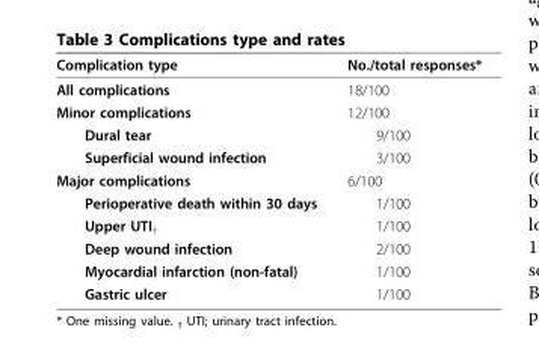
<table><thead><tr><td>Complication type</td><td>No./total responses*</td></tr></thead><tbody><tr><td>All complications</td><td>18/100</td></tr><tr><td>Minor complications</td><td>12/100</td></tr><tr><td>Dural tear</td><td>9/100</td></tr><tr><td>Superficial wound infection</td><td>3/100</td></tr><tr><td>Major complications</td><td>6/100</td></tr><tr><td>Perioperative death within 30 days</td><td>1/100</td></tr><tr><td>Upper UTI<sub>†</sub></td><td>1/100</td></tr><tr><td>Deep wound infection</td><td>2/100</td></tr><tr><td>Myocardial infarction (non-fatal)</td><td>1/100</td></tr><tr><td>Gastric ulcer</td><td>1/100</td></tr></tbody></table>